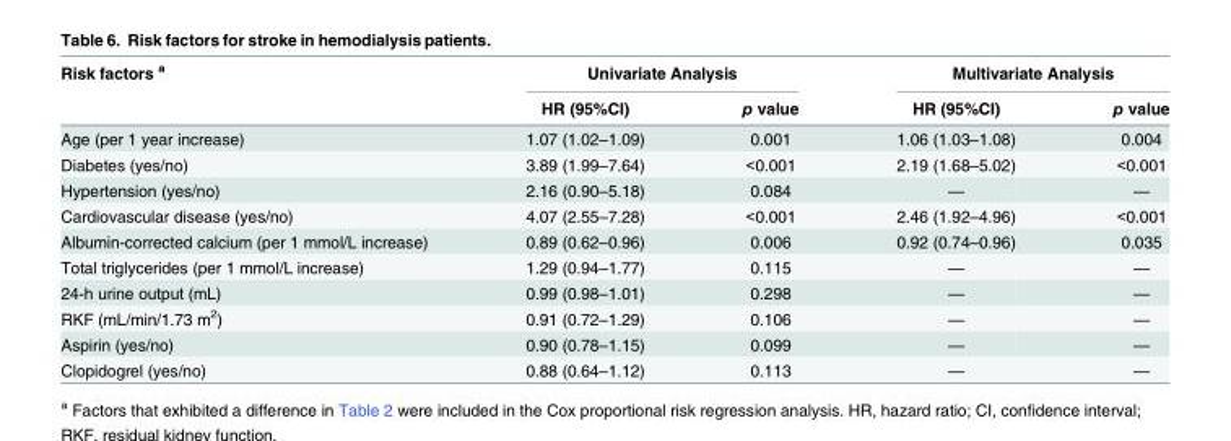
<table><thead><tr><td rowspan="2">Risk factors <sup>a</sup></td><td colspan="2">Univariate Analysis</td><td colspan="2">Multivariate Analysis</td></tr><tr><td>HR (95%CI)</td><td>p value</td><td>HR (95%CI)</td><td>p value</td></tr></thead><tbody><tr><td>Age (per 1 year increase)</td><td>1.07 (1.02–1.09)</td><td>0.001</td><td>1.06 (1.03–1.08)</td><td>0.004</td></tr><tr><td>Diabetes (yes/no)</td><td>3.89 (1.99–7.64)</td><td>&lt;0.001</td><td>2.19 (1.68–5.02)</td><td>&lt;0.001</td></tr><tr><td>Hypertension (yes/no)</td><td>2.16 (0.90–5.18)</td><td>0.084</td><td>—</td><td>—</td></tr><tr><td>Cardiovascular disease (yes/no)</td><td>4.07 (2.55–7.28)</td><td>&lt;0.001</td><td>2.46 (1.92–4.96)</td><td>&lt;0.001</td></tr><tr><td>Albumin-corrected calcium (per 1 mmol/L increase)</td><td>0.89 (0.62–0.96)</td><td>0.006</td><td>0.92 (0.74–0.96)</td><td>0.035</td></tr><tr><td>Total triglycerides (per 1 mmol/L increase)</td><td>1.29 (0.94–1.77)</td><td>0.115</td><td>—</td><td>—</td></tr><tr><td>24-h urine output (mL)</td><td>0.99 (0.98–1.01)</td><td>0.298</td><td>—</td><td>—</td></tr><tr><td>RKF (mL/min/1.73 m<sup>2</sup>)</td><td>0.91 (0.72–1.29)</td><td>0.106</td><td>—</td><td>—</td></tr><tr><td>Aspirin (yes/no)</td><td>0.90 (0.78–1.15)</td><td>0.099</td><td>—</td><td>—</td></tr><tr><td>Clopidogrel (yes/no)</td><td>0.88 (0.64–1.12)</td><td>0.113</td><td>—</td><td>—</td></tr></tbody></table>